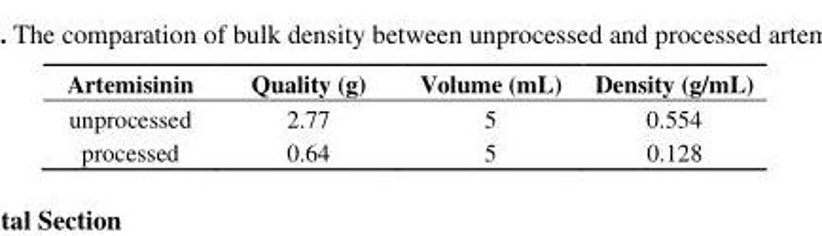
<table><thead><tr><td>Artemisinin</td><td>Quality (g)</td><td>Volume (mL)</td><td>Density (g/mL)</td></tr></thead><tbody><tr><td>unprocessed</td><td>2.77</td><td>5</td><td>0.554</td></tr><tr><td>processed</td><td>0.64</td><td>5</td><td>0.128</td></tr></tbody></table>